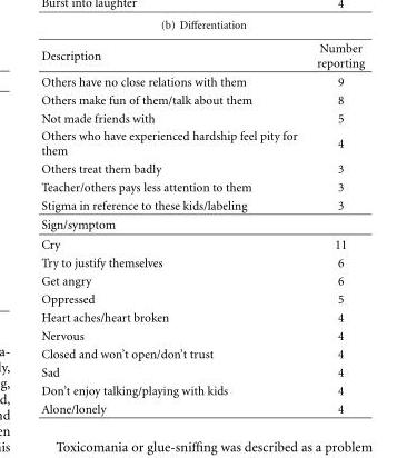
<table><thead><tr><td>Description</td><td>Number reporting</td></tr></thead><tbody><tr><td>Others have no close relations with them</td><td>9</td></tr><tr><td>Others make fun of them/talk about them</td><td>8</td></tr><tr><td>Not made friends with</td><td>5</td></tr><tr><td>Others who have experienced hardship feel pity for them</td><td>4</td></tr><tr><td>Others treat them badly</td><td>3</td></tr><tr><td>Teacher/others pays less attention to them</td><td>3</td></tr><tr><td>Stigma in reference to these kids/labeling</td><td>3</td></tr><tr><td colspan="2">Sign/symptom</td></tr><tr><td>Cry</td><td>11</td></tr><tr><td>Try to justify themselves</td><td>6</td></tr><tr><td>Get angry</td><td>6</td></tr><tr><td>Oppressed</td><td>5</td></tr><tr><td>Heart aches/heart broken</td><td>4</td></tr><tr><td>Nervous</td><td>4</td></tr><tr><td>Closed and won’t open/don’t trust</td><td>4</td></tr><tr><td>Sad</td><td>4</td></tr><tr><td>Don’t enjoy talking/playing with kids</td><td>4</td></tr><tr><td>Alone/lonely</td><td>4</td></tr></tbody></table>